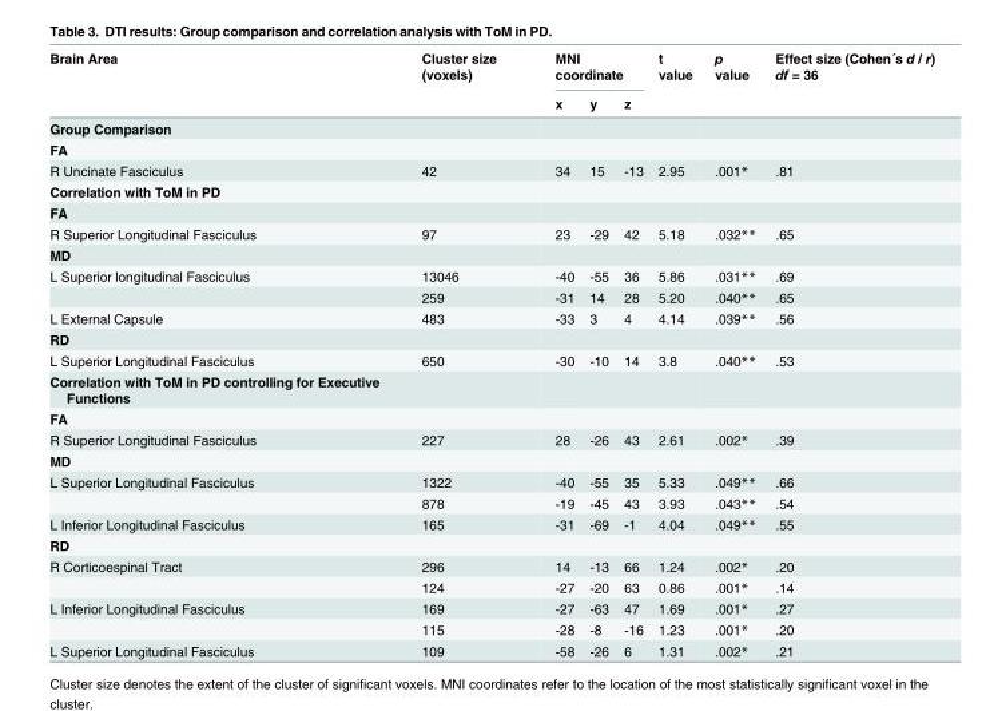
<table><thead><tr><td rowspan="2">Brain Area</td><td rowspan="2">Cluster size (voxels)</td><td colspan="3">MNI coordinate</td><td rowspan="2">t value</td><td rowspan="2">p value</td><td rowspan="2">Effect size (Cohen´s d / r) df = 36</td></tr><tr><td>x</td><td>y</td><td>z</td></tr></thead><tbody><tr><td colspan="8">Group Comparison</td></tr><tr><td colspan="8">FA</td></tr><tr><td>R Uncinate Fasciculus</td><td>42</td><td>34</td><td>15</td><td>-13</td><td>2.95</td><td>.001*</td><td>.81</td></tr><tr><td colspan="8">Correlation with ToM in PD</td></tr><tr><td colspan="8">FA</td></tr><tr><td>R Superior Longitudinal Fasciculus</td><td>97</td><td>23</td><td>-29</td><td>42</td><td>5.18</td><td>.032**</td><td>.65</td></tr><tr><td colspan="8">MD</td></tr><tr><td rowspan="2">L Superior longitudinal Fasciculus</td><td>13046</td><td>-40</td><td>-55</td><td>36</td><td>5.86</td><td>.031**</td><td>.69</td></tr><tr><td>259</td><td>-31</td><td>14</td><td>28</td><td>5.20</td><td>.040**</td><td>.65</td></tr><tr><td>L External Capsule</td><td>483</td><td>-33</td><td>3</td><td>4</td><td>4.14</td><td>.039**</td><td>.56</td></tr><tr><td colspan="8">RD</td></tr><tr><td>L Superior Longitudinal Fasciculus</td><td>650</td><td>-30</td><td>-10</td><td>14</td><td>3.8</td><td>.040**</td><td>.53</td></tr><tr><td colspan="8">Correlation with ToM in PD controlling for Executive Functions</td></tr><tr><td colspan="8">FA</td></tr><tr><td>R Superior Longitudinal Fasciculus</td><td>227</td><td>28</td><td>-26</td><td>43</td><td>2.61</td><td>.002*</td><td>.39</td></tr><tr><td colspan="8">MD</td></tr><tr><td rowspan="2">L Superior Longitudinal Fasciculus</td><td>1322</td><td>-40</td><td>-55</td><td>35</td><td>5.33</td><td>.049**</td><td>.66</td></tr><tr><td>878</td><td>-19</td><td>-45</td><td>43</td><td>3.93</td><td>.043**</td><td>.54</td></tr><tr><td>L Inferior Longitudinal Fasciculus</td><td>165</td><td>-31</td><td>-69</td><td>-1</td><td>4.04</td><td>.049**</td><td>.55</td></tr><tr><td colspan="8">RD</td></tr><tr><td rowspan="2">R Corticoespinal Tract</td><td>296</td><td>14</td><td>-13</td><td>66</td><td>1.24</td><td>.002*</td><td>.20</td></tr><tr><td>124</td><td>-27</td><td>-20</td><td>63</td><td>0.86</td><td>.001*</td><td>.14</td></tr><tr><td rowspan="2">L Inferior Longitudinal Fasciculus</td><td>169</td><td>-27</td><td>-63</td><td>47</td><td>1.69</td><td>.001*</td><td>.27</td></tr><tr><td>115</td><td>-28</td><td>-8</td><td>-16</td><td>1.23</td><td>.001*</td><td>.20</td></tr><tr><td>L Superior Longitudinal Fasciculus</td><td>109</td><td>-58</td><td>-26</td><td>6</td><td>1.31</td><td>.002*</td><td>.21</td></tr></tbody></table>